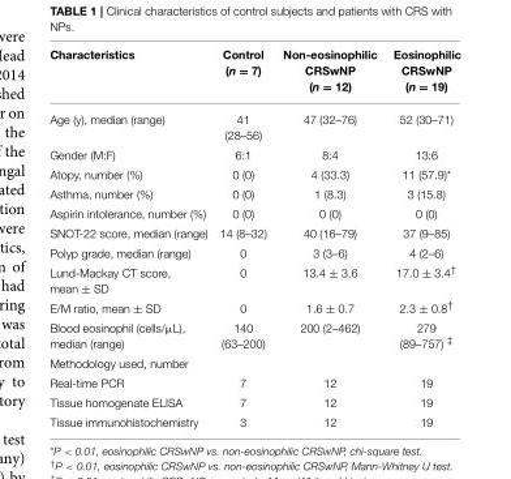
<table><thead><tr><td>Characteristics</td><td>Control (n = 7)</td><td>Non-eosinophilic CRSwNP (n = 12)</td><td>Eosinophilic CRSwNP (n = 19)</td></tr></thead><tbody><tr><td>Age (y), median (range)</td><td>41 (28–56)</td><td>47 (32–76)</td><td>52 (30–71)</td></tr><tr><td>Gender (M:F)</td><td>6:1</td><td>8:4</td><td>13:6</td></tr><tr><td>Atopy, number (%)</td><td>0 (0)</td><td>4 (33.3)</td><td>11 (57.9)*</td></tr><tr><td>Asthma, number (%)</td><td>0 (0)</td><td>1 (8.3)</td><td>3 (15.8)</td></tr><tr><td>Aspirin intolerance, number (%)</td><td>0 (0)</td><td>0 (0)</td><td>0 (0)</td></tr><tr><td>SNOT-22 score, median (range)</td><td>14 (8–32)</td><td>40 (16–79)</td><td>37 (9–85)</td></tr><tr><td>Polyp grade, median (range)</td><td>0</td><td>3 (3–6)</td><td>4 (2–6)</td></tr><tr><td>Lund-Mackay CT score, mean ± SD</td><td>0</td><td>13.4 ± 3.6</td><td>17.0 ± 3.4<sup>†</sup></td></tr><tr><td>E/M ratio, mean ± SD</td><td>0</td><td>1.6 ± 0.7</td><td>2.3 ± 0.8<sup>†</sup></td></tr><tr><td>Blood eosinophil (cells/µL), median (range)</td><td>140 (63–200)</td><td>200 (2–462)</td><td>279 (89–757) <sup>‡</sup></td></tr><tr><td colspan="4">Methodology used, number</td></tr><tr><td>Real-time PCR</td><td>7</td><td>12</td><td>19</td></tr><tr><td>Tissue homogenate ELISA</td><td>7</td><td>12</td><td>19</td></tr><tr><td>Tissue immunohistochemistry</td><td>3</td><td>12</td><td>19</td></tr></tbody></table>